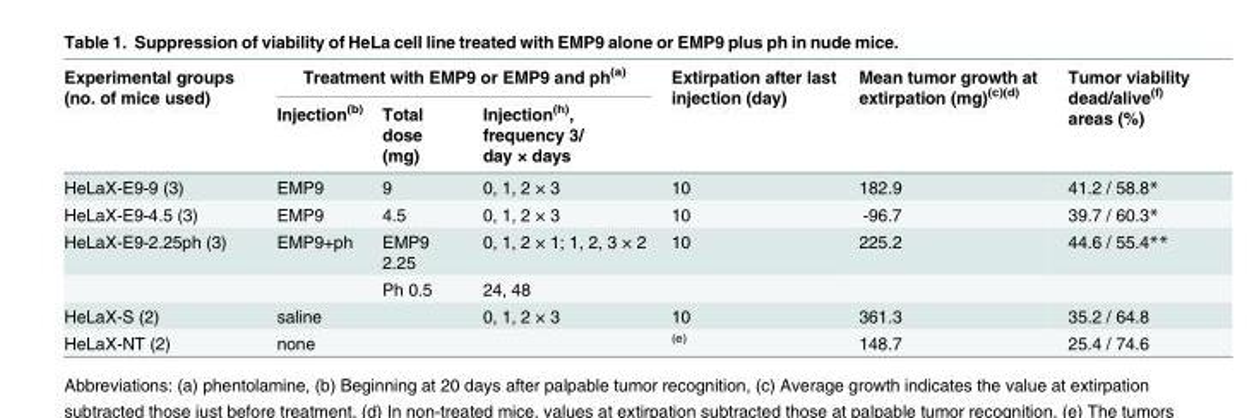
<table><thead><tr><td rowspan="2">Experimental groups (no. of mice used)</td><td colspan="3">Treatment with EMP9 or EMP9 and ph<sup>(a)</sup></td><td rowspan="2">Extirpation after last injection (day)</td><td rowspan="2">Mean tumor growth at extirpation (mg)<sup>(c)(d)</sup></td><td rowspan="2">Tumor viability dead/alive<sup>(f)</sup> areas (%)</td></tr><tr><td>Injection<sup>(b)</sup></td><td>Total dose (mg)</td><td>Injection<sup>(h)</sup>, frequency 3/ day × days</td></tr></thead><tbody><tr><td>HeLaX-E9-9 (3)</td><td>EMP9</td><td>9</td><td>0, 1, 2 × 3</td><td>10</td><td>182.9</td><td>41.2 / 58.8*</td></tr><tr><td>HeLaX-E9-4.5 (3)</td><td>EMP9</td><td>4.5</td><td>0, 1, 2 × 3</td><td>10</td><td>-96.7</td><td>39.7 / 60.3*</td></tr><tr><td rowspan="2">HeLaX-E9-2.25ph (3)</td><td>EMP9+ph</td><td>EMP9 2.25</td><td>0, 1, 2 × 1; 1, 2, 3 × 2</td><td>10</td><td>225.2</td><td>44.6 / 55.4**</td></tr><tr><td></td><td>Ph 0.5</td><td>24, 48</td><td></td><td></td><td></td></tr><tr><td>HeLaX-S (2)</td><td>saline</td><td></td><td>0, 1, 2 × 3</td><td>10</td><td>361.3</td><td>35.2 / 64.8</td></tr><tr><td>HeLaX-NT (2)</td><td>none</td><td></td><td></td><td><sup>(e)</sup></td><td>148.7</td><td>25.4 / 74.6</td></tr></tbody></table>